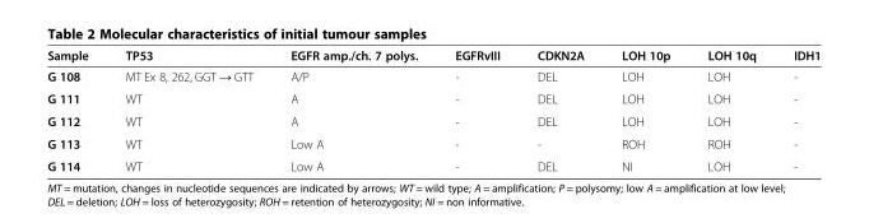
<table><thead><tr><td>Sample</td><td>TP53</td><td>EGFR amp./ch. 7 polys.</td><td>EGFRvIII</td><td>CDKN2A</td><td>LOH 10p</td><td>LOH 10q</td><td>IDH1</td></tr></thead><tbody><tr><td>G 108</td><td>MT Ex 8, 262, GGT → GTT</td><td>A/P</td><td>-</td><td>DEL</td><td>LOH</td><td>LOH</td><td>-</td></tr><tr><td>G 111</td><td>WT</td><td>A</td><td>-</td><td>DEL</td><td>LOH</td><td>LOH</td><td>-</td></tr><tr><td>G 112</td><td>WT</td><td>A</td><td>-</td><td>DEL</td><td>LOH</td><td>LOH</td><td>-</td></tr><tr><td>G 113</td><td>WT</td><td>Low A</td><td>-</td><td>-</td><td>ROH</td><td>ROH</td><td>-</td></tr><tr><td>G 114</td><td>WT</td><td>Low A</td><td>-</td><td>DEL</td><td>NI</td><td>LOH</td><td>-</td></tr></tbody></table>